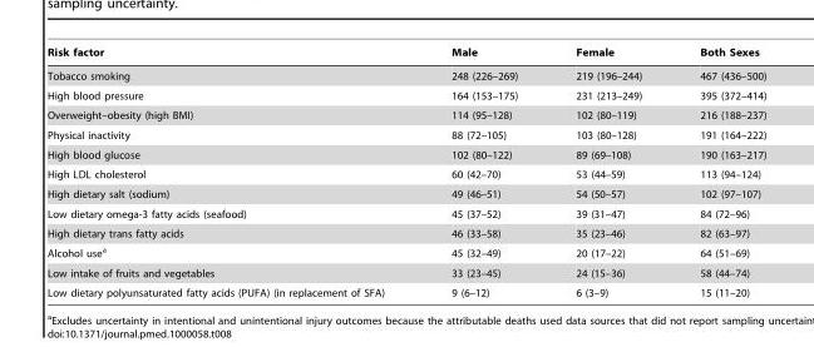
<table><thead><tr><td>Risk factor</td><td>Male</td><td>Female</td><td>Both Sexes</td></tr></thead><tbody><tr><td>Tobacco smoking</td><td>248 (226–269)</td><td>219 (196–244)</td><td>467 (436–500)</td></tr><tr><td>High blood pressure</td><td>164 (153–175)</td><td>231 (213–249)</td><td>395 (372–414)</td></tr><tr><td>Overweight–obesity (high BMI)</td><td>114 (95–128)</td><td>102 (80–119)</td><td>216 (188–237)</td></tr><tr><td>Physical inactivity</td><td>88 (72–105)</td><td>103 (80–128)</td><td>191 (164–222)</td></tr><tr><td>High blood glucose</td><td>102 (80–122)</td><td>89 (69–108)</td><td>190 (163–217)</td></tr><tr><td>High LDL cholesterol</td><td>60 (42–70)</td><td>53 (44–59)</td><td>113 (94–124)</td></tr><tr><td>High dietary salt (sodium)</td><td>49 (46–51)</td><td>54 (50–57)</td><td>102 (97–107)</td></tr><tr><td>Low dietary omega-3 fatty acids (seafood)</td><td>45 (37–52)</td><td>39 (31–47)</td><td>84 (72–96)</td></tr><tr><td>High dietary trans fatty acids</td><td>46 (33–58)</td><td>35 (23–46)</td><td>82 (63–97)</td></tr><tr><td>Alcohol use<sup>a</sup></td><td>45 (32–49)</td><td>20 (17–22)</td><td>64 (51–69)</td></tr><tr><td>Low intake of fruits and vegetables</td><td>33 (23–45)</td><td>24 (15–36)</td><td>58 (44–74)</td></tr><tr><td>Low dietary polyunsaturated fatty acids (PUFA) (in replacement of SFA)</td><td>9 (6–12)</td><td>6 (3–9)</td><td>15 (11–20)</td></tr></tbody></table>